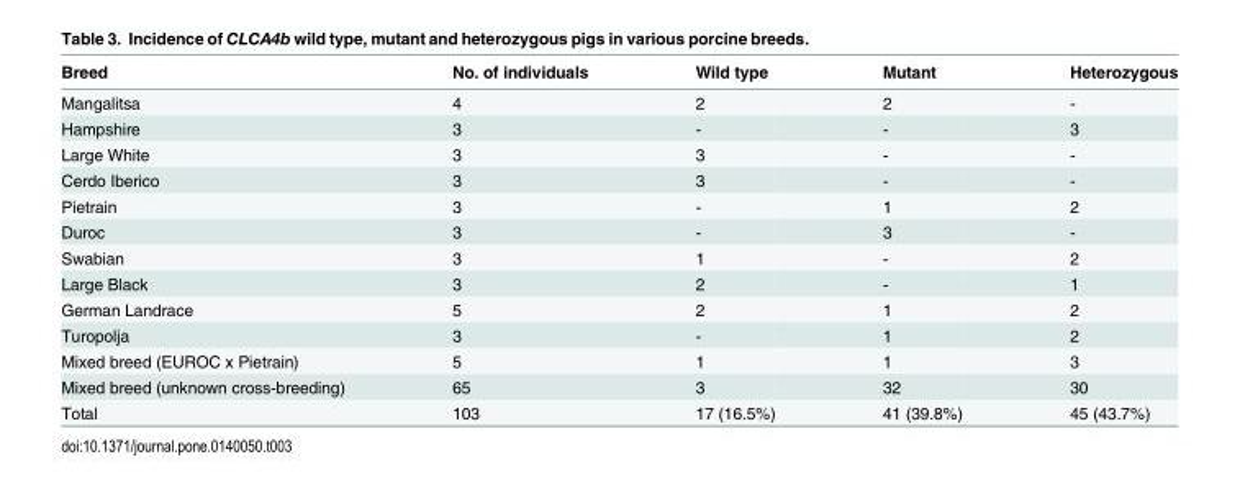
<table><thead><tr><td>Breed</td><td>No. of individuals</td><td>Wild type</td><td>Mutant</td><td>Heterozygous</td></tr></thead><tbody><tr><td>Mangalitsa</td><td>4</td><td>2</td><td>2</td><td>-</td></tr><tr><td>Hampshire</td><td>3</td><td>-</td><td>-</td><td>3</td></tr><tr><td>Large White</td><td>3</td><td>3</td><td>-</td><td>-</td></tr><tr><td>Cerdo Iberico</td><td>3</td><td>3</td><td>-</td><td>-</td></tr><tr><td>Pietrain</td><td>3</td><td>-</td><td>1</td><td>2</td></tr><tr><td>Duroc</td><td>3</td><td>-</td><td>3</td><td>-</td></tr><tr><td>Swabian</td><td>3</td><td>1</td><td>-</td><td>2</td></tr><tr><td>Large Black</td><td>3</td><td>2</td><td>-</td><td>1</td></tr><tr><td>German Landrace</td><td>5</td><td>2</td><td>1</td><td>2</td></tr><tr><td>Turopolja</td><td>3</td><td>-</td><td>1</td><td>2</td></tr><tr><td>Mixed breed (EUROC x Pietrain)</td><td>5</td><td>1</td><td>1</td><td>3</td></tr><tr><td>Mixed breed (unknown cross-breeding)</td><td>65</td><td>3</td><td>32</td><td>30</td></tr><tr><td>Total</td><td>103</td><td>17 (16.5%)</td><td>41 (39.8%)</td><td>45 (43.7%)</td></tr></tbody></table>